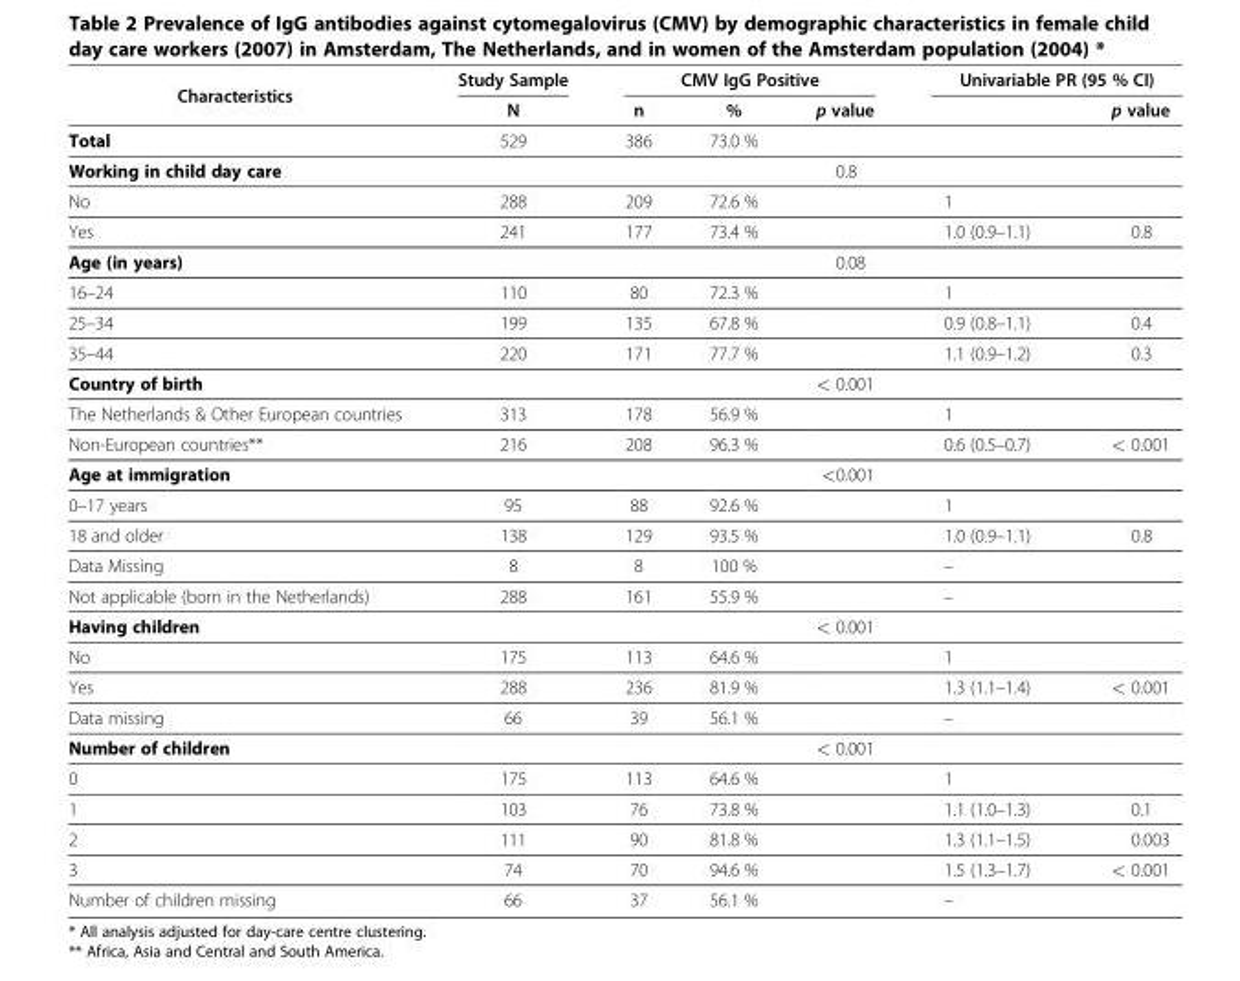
<table><thead><tr><td rowspan="2">Characteristics</td><td rowspan="2">Study Sample N</td><td colspan="3">CMV IgG Positive</td><td colspan="2">Univariable PR (95 % CI)</td></tr><tr><td>n</td><td>%</td><td>p value</td><td></td><td>p value</td></tr></thead><tbody><tr><td>Total</td><td>529</td><td>386</td><td>73.0 %</td><td></td><td></td><td></td></tr><tr><td>Working in child day care</td><td></td><td></td><td></td><td>0.8</td><td></td><td></td></tr><tr><td>No</td><td>288</td><td>209</td><td>72.6 %</td><td></td><td>1</td><td></td></tr><tr><td>Yes</td><td>241</td><td>177</td><td>73.4 %</td><td></td><td>1.0 (0.9–1.1)</td><td>0.8</td></tr><tr><td>Age (in years)</td><td></td><td></td><td></td><td>0.08</td><td></td><td></td></tr><tr><td>16–24</td><td>110</td><td>80</td><td>72.3 %</td><td></td><td>1</td><td></td></tr><tr><td>25–34</td><td>199</td><td>135</td><td>67.8 %</td><td></td><td>0.9 (0.8–1.1)</td><td>0.4</td></tr><tr><td>35–44</td><td>220</td><td>171</td><td>77.7 %</td><td></td><td>1.1 (0.9–1.2)</td><td>0.3</td></tr><tr><td>Country of birth</td><td></td><td></td><td></td><td>&lt; 0.001</td><td></td><td></td></tr><tr><td>The Netherlands &amp; Other European countries</td><td>313</td><td>178</td><td>56.9 %</td><td></td><td>1</td><td></td></tr><tr><td>Non-European countries**</td><td>216</td><td>208</td><td>96.3 %</td><td></td><td>0.6 (0.5–0.7)</td><td>&lt; 0.001</td></tr><tr><td>Age at immigration</td><td></td><td></td><td></td><td>&lt;0.001</td><td></td><td></td></tr><tr><td>0–17 years</td><td>95</td><td>88</td><td>92.6 %</td><td></td><td>1</td><td></td></tr><tr><td>18 and older</td><td>138</td><td>129</td><td>93.5 %</td><td></td><td>1.0 (0.9–1.1)</td><td>0.8</td></tr><tr><td>Data Missing</td><td>8</td><td>8</td><td>100 %</td><td></td><td>–</td><td></td></tr><tr><td>Not applicable (born in the Netherlands)</td><td>288</td><td>161</td><td>55.9 %</td><td></td><td>–</td><td></td></tr><tr><td>Having children</td><td></td><td></td><td></td><td>&lt; 0.001</td><td></td><td></td></tr><tr><td>No</td><td>175</td><td>113</td><td>64.6 %</td><td></td><td>1</td><td></td></tr><tr><td>Yes</td><td>288</td><td>236</td><td>81.9 %</td><td></td><td>1.3 (1.1–1.4)</td><td>&lt; 0.001</td></tr><tr><td>Data missing</td><td>66</td><td>39</td><td>56.1 %</td><td></td><td>–</td><td></td></tr><tr><td>Number of children</td><td></td><td></td><td></td><td>&lt; 0.001</td><td></td><td></td></tr><tr><td>0</td><td>175</td><td>113</td><td>64.6 %</td><td></td><td>1</td><td></td></tr><tr><td>1</td><td>103</td><td>76</td><td>73.8 %</td><td></td><td>1.1 (1.0–1.3)</td><td>0.1</td></tr><tr><td>2</td><td>111</td><td>90</td><td>81.8 %</td><td></td><td>1.3 (1.1–1.5)</td><td>0.003</td></tr><tr><td>3</td><td>74</td><td>70</td><td>94.6 %</td><td></td><td>1.5 (1.3–1.7)</td><td>&lt; 0.001</td></tr><tr><td>Number of children missing</td><td>66</td><td>37</td><td>56.1 %</td><td></td><td>–</td><td></td></tr></tbody></table>